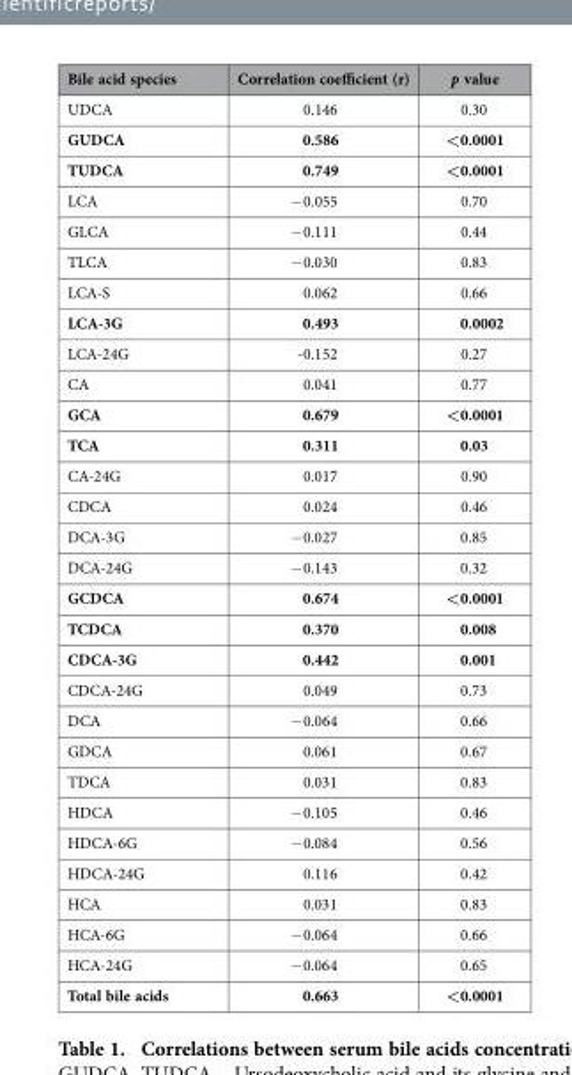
<table><thead><tr><td>Bile acid species</td><td>Correlation coefficient (r)</td><td>p value</td></tr></thead><tbody><tr><td>UDCA</td><td>0.146</td><td>0.30</td></tr><tr><td>GUDCA</td><td>0.586</td><td>&lt;0.0001</td></tr><tr><td>TUDCA</td><td>0.749</td><td>&lt;0.0001</td></tr><tr><td>LCA</td><td>− 0.055</td><td>0.70</td></tr><tr><td>GLCA</td><td>− 0.111</td><td>0.44</td></tr><tr><td>TLCA</td><td>− 0.030</td><td>0.83</td></tr><tr><td>LCA-S</td><td>0.062</td><td>0.66</td></tr><tr><td>LCA-3G</td><td>0.493</td><td>0.0002</td></tr><tr><td>LCA-24G</td><td>-0.152</td><td>0.27</td></tr><tr><td>CA</td><td>0.041</td><td>0.77</td></tr><tr><td>GCA</td><td>0.679</td><td>&lt;0.0001</td></tr><tr><td>TCA</td><td>0.311</td><td>0.03</td></tr><tr><td>CA-24G</td><td>0.017</td><td>0.90</td></tr><tr><td>CDCA</td><td>0.024</td><td>0.46</td></tr><tr><td>DCA-3G</td><td>− 0.027</td><td>0.85</td></tr><tr><td>DCA-24G</td><td>− 0.143</td><td>0.32</td></tr><tr><td>GCDCA</td><td>0.674</td><td>&lt;0.0001</td></tr><tr><td>TCDCA</td><td>0.370</td><td>0.008</td></tr><tr><td>CDCA-3G</td><td>0.442</td><td>0.001</td></tr><tr><td>CDCA-24G</td><td>0.049</td><td>0.73</td></tr><tr><td>DCA</td><td>− 0.064</td><td>0.66</td></tr><tr><td>GDCA</td><td>0.061</td><td>0.67</td></tr><tr><td>TDCA</td><td>0.031</td><td>0.83</td></tr><tr><td>HDCA</td><td>− 0.105</td><td>0.46</td></tr><tr><td>HDCA-6G</td><td>− 0.084</td><td>0.56</td></tr><tr><td>HDCA-24G</td><td>0.116</td><td>0.42</td></tr><tr><td>HCA</td><td>0.031</td><td>0.83</td></tr><tr><td>HCA-6G</td><td>− 0.064</td><td>0.66</td></tr><tr><td>HCA-24G</td><td>− 0.064</td><td>0.65</td></tr><tr><td>Total bile acids</td><td>0.663</td><td>&lt;0.0001</td></tr></tbody></table>